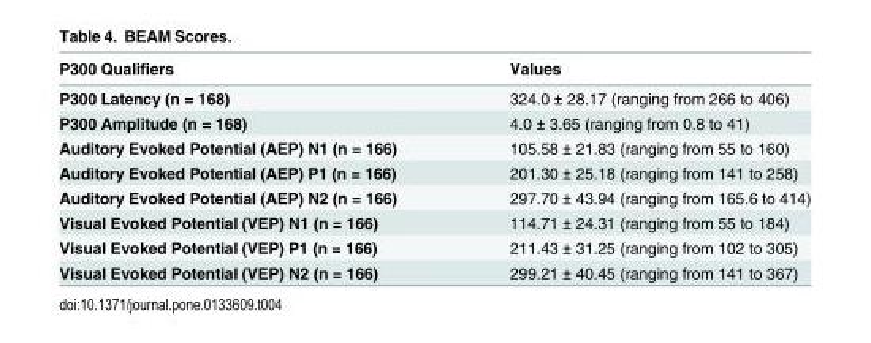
<table><thead><tr><td>P300 Qualifiers</td><td>Values</td></tr></thead><tbody><tr><td>P300 Latency (n = 168)</td><td>324.0 ± 28.17 (ranging from 266 to 406)</td></tr><tr><td>P300 Amplitude (n = 168)</td><td>4.0 ± 3.65 (ranging from 0.8 to 41)</td></tr><tr><td>Auditory Evoked Potential (AEP) N1 (n = 166)</td><td>105.58 ± 21.83 (ranging from 55 to 160)</td></tr><tr><td>Auditory Evoked Potential (AEP) P1 (n = 166)</td><td>201.30 ± 25.18 (ranging from 141 to 258)</td></tr><tr><td>Auditory Evoked Potential (AEP) N2 (n = 166)</td><td>297.70 ± 43.94 (ranging from 165.6 to 414)</td></tr><tr><td>Visual Evoked Potential (VEP) N1 (n = 166)</td><td>114.71 ± 24.31 (ranging from 55 to 184)</td></tr><tr><td>Visual Evoked Potential (VEP) P1 (n = 166)</td><td>211.43 ± 31.25 (ranging from 102 to 305)</td></tr><tr><td>Visual Evoked Potential (VEP) N2 (n = 166)</td><td>299.21 ± 40.45 (ranging from 141 to 367)</td></tr></tbody></table>